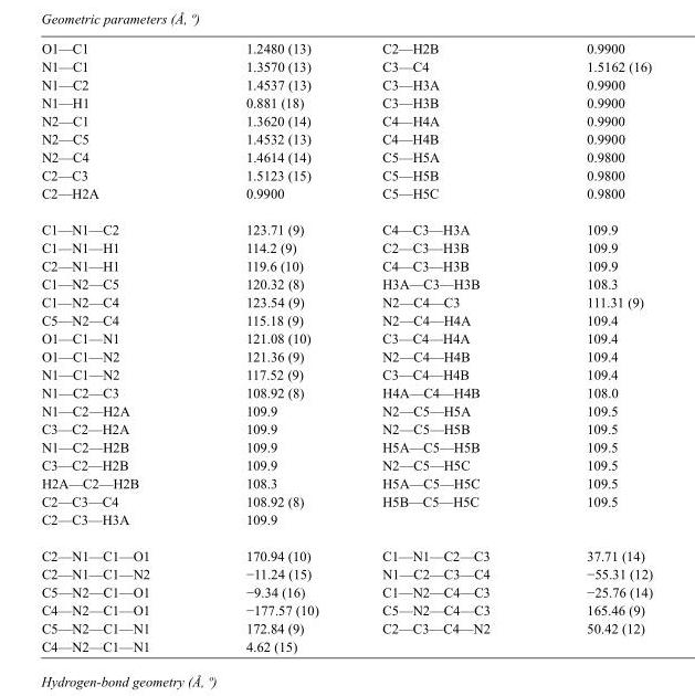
<table><tbody><tr><td>O1—C1</td><td>1.2480 (13)</td><td>C2—H2B</td><td>0.9900</td></tr><tr><td>N1—C1</td><td>1.3570 (13)</td><td>C3—C4</td><td>1.5162 (16)</td></tr><tr><td>N1—C2</td><td>1.4537 (13)</td><td>C3—H3A</td><td>0.9900</td></tr><tr><td>N1—H1</td><td>0.881 (18)</td><td>C3—H3B</td><td>0.9900</td></tr><tr><td>N2—C1</td><td>1.3620 (14)</td><td>C4—H4A</td><td>0.9900</td></tr><tr><td>N2—C5</td><td>1.4532 (13)</td><td>C4—H4B</td><td>0.9900</td></tr><tr><td>N2—C4</td><td>1.4614 (14)</td><td>C5—H5A</td><td>0.9800</td></tr><tr><td>C2—C3</td><td>1.5123 (15)</td><td>C5—H5B</td><td>0.9800</td></tr><tr><td>C2—H2A</td><td>0.9900</td><td>C5—H5C</td><td>0.9800</td></tr><tr><td>C1—N1—C2</td><td>123.71 (9)</td><td>C4—C3—H3A</td><td>109.9</td></tr><tr><td>C1—N1—H1</td><td>114.2 (9)</td><td>C2—C3—H3B</td><td>109.9</td></tr><tr><td>C2—N1—H1</td><td>119.6 (10)</td><td>C4—C3—H3B</td><td>109.9</td></tr><tr><td>C1—N2—C5</td><td>120.32 (8)</td><td>H3A—C3—H3B</td><td>108.3</td></tr><tr><td>C1—N2—C4</td><td>123.54 (9)</td><td>N2—C4—C3</td><td>111.31 (9)</td></tr><tr><td>C5—N2—C4</td><td>115.18 (9)</td><td>N2—C4—H4A</td><td>109.4</td></tr><tr><td>O1—C1—N1</td><td>121.08 (10)</td><td>C3—C4—H4A</td><td>109.4</td></tr><tr><td>O1—C1—N2</td><td>121.36 (9)</td><td>N2—C4—H4B</td><td>109.4</td></tr><tr><td>N1—C1—N2</td><td>117.52 (9)</td><td>C3—C4—H4B</td><td>109.4</td></tr><tr><td>N1—C2—C3</td><td>108.92 (8)</td><td>H4A—C4—H4B</td><td>108.0</td></tr><tr><td>N1—C2—H2A</td><td>109.9</td><td>N2—C5—H5A</td><td>109.5</td></tr><tr><td>C3—C2—H2A</td><td>109.9</td><td>N2—C5—H5B</td><td>109.5</td></tr><tr><td>N1—C2—H2B</td><td>109.9</td><td>H5A—C5—H5B</td><td>109.5</td></tr><tr><td>C3—C2—H2B</td><td>109.9</td><td>N2—C5—H5C</td><td>109.5</td></tr><tr><td>H2A—C2—H2B</td><td>108.3</td><td>H5A—C5—H5C</td><td>109.5</td></tr><tr><td>C2—C3—C4</td><td>108.92 (8)</td><td>H5B—C5—H5C</td><td>109.5</td></tr><tr><td>C2—C3—H3A</td><td>109.9</td><td></td><td></td></tr><tr><td>C2—N1—C1—O1</td><td>170.94 (10)</td><td>C1—N1—C2—C3</td><td>37.71 (14)</td></tr><tr><td>C2—N1—C1—N2</td><td>−11.24 (15)</td><td>N1—C2—C3—C4</td><td>−55.31 (12)</td></tr><tr><td>C5—N2—C1—O1</td><td>−9.34 (16)</td><td>C1—N2—C4—C3</td><td>−25.76 (14)</td></tr><tr><td>C4—N2—C1—O1</td><td>−177.57 (10)</td><td>C5—N2—C4—C3</td><td>165.46 (9)</td></tr><tr><td>C5—N2—C1—N1</td><td>172.84 (9)</td><td>C2—C3—C4—N2</td><td>50.42 (12)</td></tr><tr><td>C4—N2—C1—N1</td><td>4.62 (15)</td><td></td><td></td></tr></tbody></table>